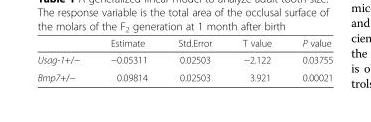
<table><thead><tr><td></td><td>Estimate</td><td>Std.Error</td><td>T value</td><td>P value</td></tr></thead><tbody><tr><td>Usag-1+/−</td><td>−0.05311</td><td>0.02503</td><td>−2.122</td><td>0.03755</td></tr><tr><td>Bmp7+/−</td><td>0.09814</td><td>0.02503</td><td>3.921</td><td>0.00021</td></tr></tbody></table>